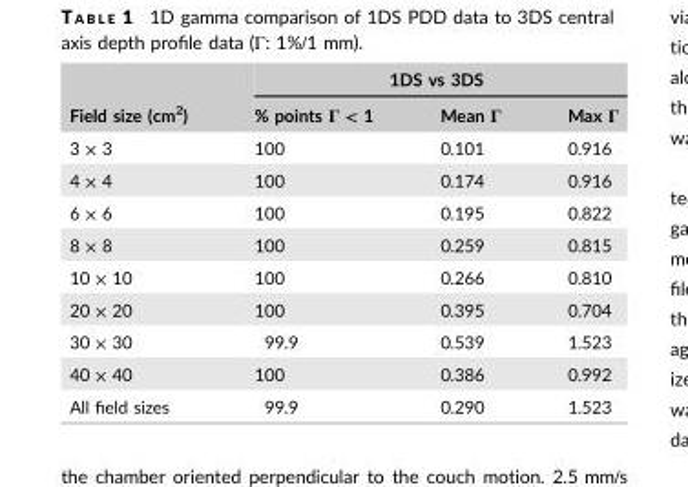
<table><thead><tr><td rowspan="2">Field size (cm<sup>2</sup>)</td><td colspan="3">1DS vs 3DS</td></tr><tr><td>% points Γ &lt; 1</td><td>Mean Γ</td><td>Max Γ</td></tr></thead><tbody><tr><td>3 × 3</td><td>100</td><td>0.101</td><td>0.916</td></tr><tr><td>4 × 4</td><td>100</td><td>0.174</td><td>0.916</td></tr><tr><td>6 × 6</td><td>100</td><td>0.195</td><td>0.822</td></tr><tr><td>8 × 8</td><td>100</td><td>0.259</td><td>0.815</td></tr><tr><td>10 × 10</td><td>100</td><td>0.266</td><td>0.810</td></tr><tr><td>20 × 20</td><td>100</td><td>0.395</td><td>0.704</td></tr><tr><td>30 × 30</td><td>99.9</td><td>0.539</td><td>1.523</td></tr><tr><td>40 × 40</td><td>100</td><td>0.386</td><td>0.992</td></tr><tr><td>All field sizes</td><td>99.9</td><td>0.290</td><td>1.523</td></tr></tbody></table>